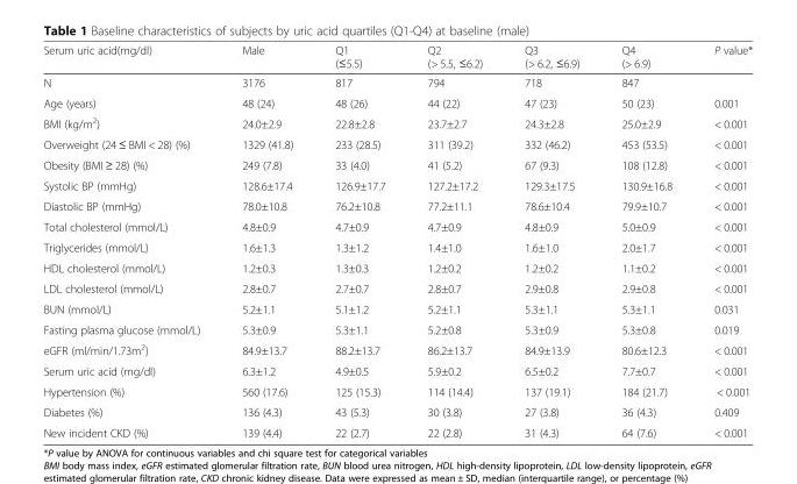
<table><thead><tr><td>Serum uric acid(mg/dl)</td><td>Male</td><td>Q1 (≤5.5)</td><td>Q2 (&gt; 5.5, ≤6.2)</td><td>Q3 (&gt; 6.2, ≤6.9)</td><td>Q4 (&gt; 6.9)</td><td>P value*</td></tr></thead><tbody><tr><td>N</td><td>3176</td><td>817</td><td>794</td><td>718</td><td>847</td><td></td></tr><tr><td>Age (years)</td><td>48 (24)</td><td>48 (26)</td><td>44 (22)</td><td>47 (23)</td><td>50 (23)</td><td>0.001</td></tr><tr><td>BMI (kg/m<sup>2</sup>)</td><td>24.0±2.9</td><td>22.8±2.8</td><td>23.7±2.7</td><td>24.3±2.8</td><td>25.0±2.9</td><td>&lt; 0.001</td></tr><tr><td>Overweight (24 ≤ BMI &lt; 28) (%)</td><td>1329 (41.8)</td><td>233 (28.5)</td><td>311 (39.2)</td><td>332 (46.2)</td><td>453 (53.5)</td><td>&lt; 0.001</td></tr><tr><td>Obesity (BMI ≥ 28) (%)</td><td>249 (7.8)</td><td>33 (4.0)</td><td>41 (5.2)</td><td>67 (9.3)</td><td>108 (12.8)</td><td>&lt; 0.001</td></tr><tr><td>Systolic BP (mmHg)</td><td>128.6±17.4</td><td>126.9±17.7</td><td>127.2±17.2</td><td>129.3±17.5</td><td>130.9±16.8</td><td>&lt; 0.001</td></tr><tr><td>Diastolic BP (mmHg)</td><td>78.0±10.8</td><td>76.2±10.8</td><td>77.2±11.1</td><td>78.6±10.4</td><td>79.9±10.7</td><td>&lt; 0.001</td></tr><tr><td>Total cholesterol (mmol/L)</td><td>4.8±0.9</td><td>4.7±0.9</td><td>4.7±0.9</td><td>4.8±0.9</td><td>5.0±0.9</td><td>&lt; 0.001</td></tr><tr><td>Triglycerides (mmol/L)</td><td>1.6±1.3</td><td>1.3±1.2</td><td>1.4±1.0</td><td>1.6±1.0</td><td>2.0±1.7</td><td>&lt; 0.001</td></tr><tr><td>HDL cholesterol (mmol/L)</td><td>1.2±0.3</td><td>1.3±0.3</td><td>1.2±0.2</td><td>1.2±0.2</td><td>1.1±0.2</td><td>&lt; 0.001</td></tr><tr><td>LDL cholesterol (mmol/L)</td><td>2.8±0.7</td><td>2.7±0.7</td><td>2.8±0.7</td><td>2.9±0.8</td><td>2.9±0.8</td><td>&lt; 0.001</td></tr><tr><td>BUN (mmol/L)</td><td>5.2±1.1</td><td>5.1±1.2</td><td>5.2±1.1</td><td>5.3±1.1</td><td>5.3±1.1</td><td>0.031</td></tr><tr><td>Fasting plasma glucose (mmol/L)</td><td>5.3±0.9</td><td>5.3±1.1</td><td>5.2±0.8</td><td>5.3±0.9</td><td>5.3±0.8</td><td>0.019</td></tr><tr><td>eGFR (ml/min/1.73m<sup>2</sup>)</td><td>84.9±13.7</td><td>88.2±13.7</td><td>86.2±13.7</td><td>84.9±13.9</td><td>80.6±12.3</td><td>&lt; 0.001</td></tr><tr><td>Serum uric acid (mg/dl)</td><td>6.3±1.2</td><td>4.9±0.5</td><td>5.9±0.2</td><td>6.5±0.2</td><td>7.7±0.7</td><td>&lt; 0.001</td></tr><tr><td>Hypertension (%)</td><td>560 (17.6)</td><td>125 (15.3)</td><td>114 (14.4)</td><td>137 (19.1)</td><td>184 (21.7)</td><td>&lt; 0.001</td></tr><tr><td>Diabetes (%)</td><td>136 (4.3)</td><td>43 (5.3)</td><td>30 (3.8)</td><td>27 (3.8)</td><td>36 (4.3)</td><td>0.409</td></tr><tr><td>New incident CKD (%)</td><td>139 (4.4)</td><td>22 (2.7)</td><td>22 (2.8)</td><td>31 (4.3)</td><td>64 (7.6)</td><td>&lt; 0.001</td></tr></tbody></table>